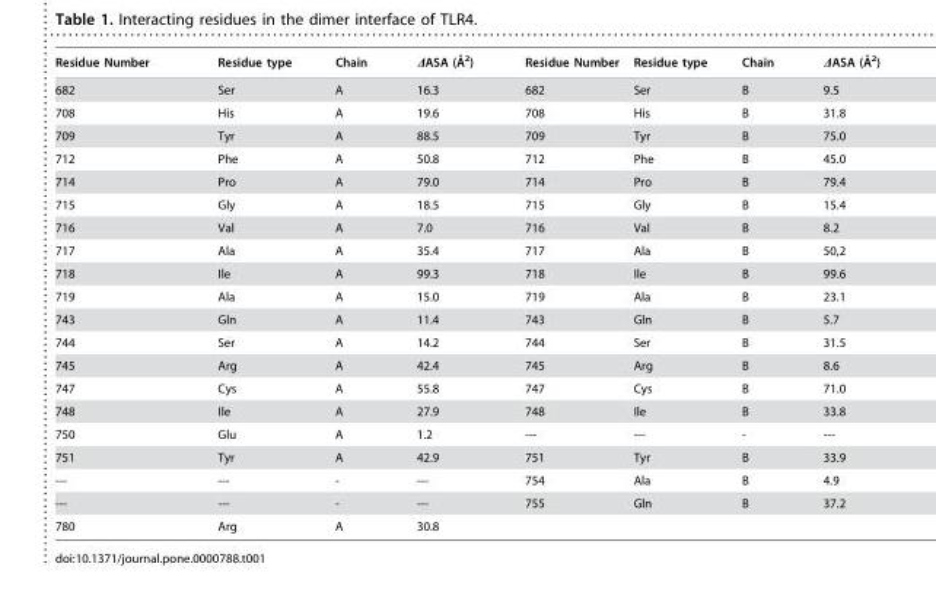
<table><thead><tr><td>Residue Number</td><td>Residue type</td><td>Chain</td><td>DASA (A˚ 2)</td><td>Residue Number</td><td>Residue type</td><td>Chain</td><td>DASA (A˚ 2)</td></tr></thead><tbody><tr><td>682</td><td>Ser</td><td>A</td><td>16.3</td><td>682</td><td>Ser</td><td>B</td><td>9.5</td></tr><tr><td>708</td><td>His</td><td>A</td><td>19.6</td><td>708</td><td>His</td><td>B</td><td>31.8</td></tr><tr><td>709</td><td>Tyr</td><td>A</td><td>88.5</td><td>709</td><td>Tyr</td><td>B</td><td>75.0</td></tr><tr><td>712</td><td>Phe</td><td>A</td><td>50.8</td><td>712</td><td>Phe</td><td>B</td><td>45.0</td></tr><tr><td>714</td><td>Pro</td><td>A</td><td>79.0</td><td>714</td><td>Pro</td><td>B</td><td>79.4</td></tr><tr><td>715</td><td>Gly</td><td>A</td><td>18.5</td><td>715</td><td>Gly</td><td>B</td><td>15.4</td></tr><tr><td>716</td><td>Val</td><td>A</td><td>7.0</td><td>716</td><td>Val</td><td>B</td><td>8.2</td></tr><tr><td>717</td><td>Ala</td><td>A</td><td>35.4</td><td>717</td><td>Ala</td><td>B</td><td>50,2</td></tr><tr><td>718</td><td>Ile</td><td>A</td><td>99.3</td><td>718</td><td>Ile</td><td>B</td><td>99.6</td></tr><tr><td>719</td><td>Ala</td><td>A</td><td>15.0</td><td>719</td><td>Ala</td><td>B</td><td>23.1</td></tr><tr><td>743</td><td>Gln</td><td>A</td><td>11.4</td><td>743</td><td>Gln</td><td>B</td><td>5.7</td></tr><tr><td>744</td><td>Ser</td><td>A</td><td>14.2</td><td>744</td><td>Ser</td><td>B</td><td>31.5</td></tr><tr><td>745</td><td>Arg</td><td>A</td><td>42.4</td><td>745</td><td>Arg</td><td>B</td><td>8.6</td></tr><tr><td>747</td><td>Cys</td><td>A</td><td>55.8</td><td>747</td><td>Cys</td><td>B</td><td>71.0</td></tr><tr><td>748</td><td>Ile</td><td>A</td><td>27.9</td><td>748</td><td>Ile</td><td>B</td><td>33.8</td></tr><tr><td>750</td><td>Glu</td><td>A</td><td>1.2</td><td>---</td><td>---</td><td>-</td><td>---</td></tr><tr><td>751</td><td>Tyr</td><td>A</td><td>42.9</td><td>751</td><td>Tyr</td><td>B</td><td>33.9</td></tr><tr><td>---</td><td>---</td><td>-</td><td>---</td><td>754</td><td>Ala</td><td>B</td><td>4.9</td></tr><tr><td>---</td><td>---</td><td>-</td><td>---</td><td>755</td><td>Gln</td><td>B</td><td>37.2</td></tr><tr><td>780</td><td>Arg</td><td>A</td><td>30.8</td><td></td><td></td><td></td><td></td></tr></tbody></table>